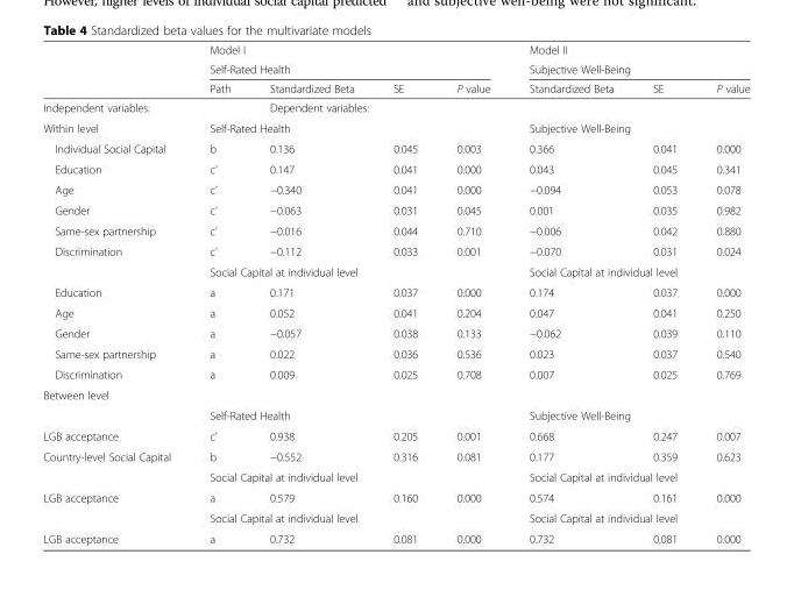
<table><thead><tr><td rowspan="3"></td><td rowspan="2" colspan="4">Model I Self-Rated Health</td><td rowspan="2" colspan="3">Model II Subjective Well-Being</td></tr><tr></tr><tr><td>Path</td><td>Standardized Beta</td><td>SE</td><td>P value</td><td>Standardized Beta</td><td>SE</td><td>P value</td></tr></thead><tbody><tr><td>Independent variables:</td><td></td><td colspan="6">Dependent variables:</td></tr><tr><td>Within level</td><td colspan="4">Self-Rated Health</td><td colspan="3">Subjective Well-Being</td></tr><tr><td>Individual Social Capital</td><td>b</td><td>0.136</td><td>0.045</td><td>0.003</td><td>0.366</td><td>0.041</td><td>0.000</td></tr><tr><td>Education</td><td>c’</td><td>0.147</td><td>0.041</td><td>0.000</td><td>0.043</td><td>0.045</td><td>0.341</td></tr><tr><td>Age</td><td>c’</td><td>−0.340</td><td>0.041</td><td>0.000</td><td>−0.094</td><td>0.053</td><td>0.078</td></tr><tr><td>Gender</td><td>c’</td><td>−0.063</td><td>0.031</td><td>0.045</td><td>0.001</td><td>0.035</td><td>0.982</td></tr><tr><td>Same-sex partnership</td><td>c’</td><td>−0.016</td><td>0.044</td><td>0.710</td><td>−0.006</td><td>0.042</td><td>0.880</td></tr><tr><td rowspan="2">Discrimination</td><td>c’</td><td>−0.112</td><td>0.033</td><td>0.001</td><td>−0.070</td><td>0.031</td><td>0.024</td></tr><tr><td colspan="4">Social Capital at individual level</td><td colspan="3">Social Capital at individual level</td></tr><tr><td>Education</td><td>a</td><td>0.171</td><td>0.037</td><td>0.000</td><td>0.174</td><td>0.037</td><td>0.000</td></tr><tr><td>Age</td><td>a</td><td>0.052</td><td>0.041</td><td>0.204</td><td>0.047</td><td>0.041</td><td>0.250</td></tr><tr><td>Gender</td><td>a</td><td>−0.057</td><td>0.038</td><td>0.133</td><td>−0.062</td><td>0.039</td><td>0.110</td></tr><tr><td>Same-sex partnership</td><td>a</td><td>0.022</td><td>0.036</td><td>0.536</td><td>0.023</td><td>0.037</td><td>0.540</td></tr><tr><td>Discrimination</td><td>a</td><td>0.009</td><td>0.025</td><td>0.708</td><td>0.007</td><td>0.025</td><td>0.769</td></tr><tr><td colspan="8">Between level</td></tr><tr><td></td><td colspan="4">Self-Rated Health</td><td colspan="3">Subjective Well-Being</td></tr><tr><td>LGB acceptance</td><td>c&#x27;</td><td>0.938</td><td>0.205</td><td>0.001</td><td>0.668</td><td>0.247</td><td>0.007</td></tr><tr><td rowspan="2">Country-level Social Capital</td><td>b</td><td>−0.552</td><td>0.316</td><td>0.081</td><td>0.177</td><td>0.359</td><td>0.623</td></tr><tr><td colspan="4">Social Capital at individual level</td><td colspan="3">Social Capital at individual level</td></tr><tr><td rowspan="2">LGB acceptance</td><td>a</td><td>0.579</td><td>0.160</td><td>0.000</td><td>0.574</td><td>0.161</td><td>0.000</td></tr><tr><td colspan="4">Social Capital at individual level</td><td colspan="3">Social Capital at individual level</td></tr><tr><td>LGB acceptance</td><td>a</td><td>0.732</td><td>0.081</td><td>0.000</td><td>0.732</td><td>0.081</td><td>0.000</td></tr></tbody></table>